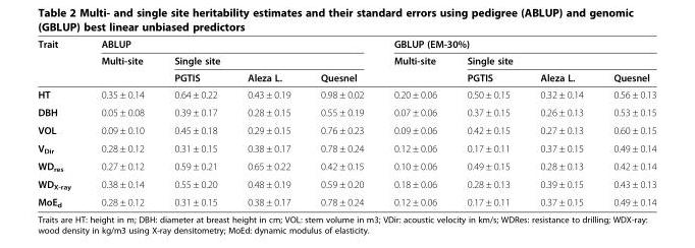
<table><thead><tr><td rowspan="3">Trait</td><td colspan="4">ABLUP</td><td colspan="4">GBLUP (EM-30%)</td></tr><tr><td rowspan="2">Multi-site</td><td colspan="3">Single site</td><td rowspan="2">Multi-site</td><td colspan="3">Single site</td></tr><tr><td>PGTIS</td><td>Aleza L.</td><td>Quesnel</td><td>PGTIS</td><td>Aleza L.</td><td>Quesnel</td></tr></thead><tbody><tr><td>HT</td><td>0.35 ± 0.14</td><td>0.64 ± 0.22</td><td>0.43 ± 0.19</td><td>0.98 ± 0.02</td><td>0.20 ± 0.06</td><td>0.50 ± 0.15</td><td>0.32 ± 0.14</td><td>0.56 ± 0.13</td></tr><tr><td>DBH</td><td>0.05 ± 0.08</td><td>0.39 ± 0.17</td><td>0.28 ± 0.15</td><td>0.55 ± 0.19</td><td>0.07 ± 0.06</td><td>0.37 ± 0.15</td><td>0.26 ± 0.13</td><td>0.53 ± 0.15</td></tr><tr><td>VOL</td><td>0.09 ± 0.10</td><td>0.45 ± 0.18</td><td>0.29 ± 0.15</td><td>0.76 ± 0.23</td><td>0.09 ± 0.06</td><td>0.42 ± 0.15</td><td>0.27 ± 0.13</td><td>0.60 ± 0.15</td></tr><tr><td>V<sub>Dir</sub></td><td>0.28 ± 0.12</td><td>0.31 ± 0.15</td><td>0.38 ± 0.17</td><td>0.78 ± 0.24</td><td>0.12 ± 0.06</td><td>0.17 ± 0.11</td><td>0.37 ± 0.15</td><td>0.49 ± 0.14</td></tr><tr><td>WD<sub>res</sub></td><td>0.27 ± 0.12</td><td>0.59 ± 0.21</td><td>0.65 ± 0.22</td><td>0.42 ± 0.15</td><td>0.10 ± 0.06</td><td>0.49 ± 0.15</td><td>0.28 ± 0.13</td><td>0.42 ± 0.14</td></tr><tr><td>WD<sub>X-ray</sub></td><td>0.38 ± 0.14</td><td>0.55 ± 0.20</td><td>0.48 ± 0.19</td><td>0.59 ± 0.20</td><td>0.18 ± 0.06</td><td>0.28 ± 0.13</td><td>0.39 ± 0.15</td><td>0.43 ± 0.13</td></tr><tr><td>MoE<sub>d</sub></td><td>0.28 ± 0.12</td><td>0.31 ± 0.15</td><td>0.38 ± 0.17</td><td>0.78 ± 0.24</td><td>0.12 ± 0.06</td><td>0.17 ± 0.11</td><td>0.37 ± 0.15</td><td>0.49 ± 0.14</td></tr></tbody></table>